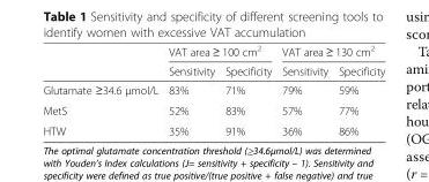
<table><thead><tr><td rowspan="2"></td><td colspan="2">VAT area ≥ 100 cm<sup>2</sup></td><td colspan="2">VAT area ≥ 130 cm<sup>2</sup></td></tr><tr><td>Sensitivity</td><td>Specificity</td><td>Sensitivity</td><td>Specificity</td></tr></thead><tbody><tr><td>Glutamate ≥34.6 μmol/L</td><td>83%</td><td>71%</td><td>79%</td><td>59%</td></tr><tr><td>MetS</td><td>52%</td><td>83%</td><td>57%</td><td>77%</td></tr><tr><td>HTW</td><td>35%</td><td>91%</td><td>36%</td><td>86%</td></tr></tbody></table>